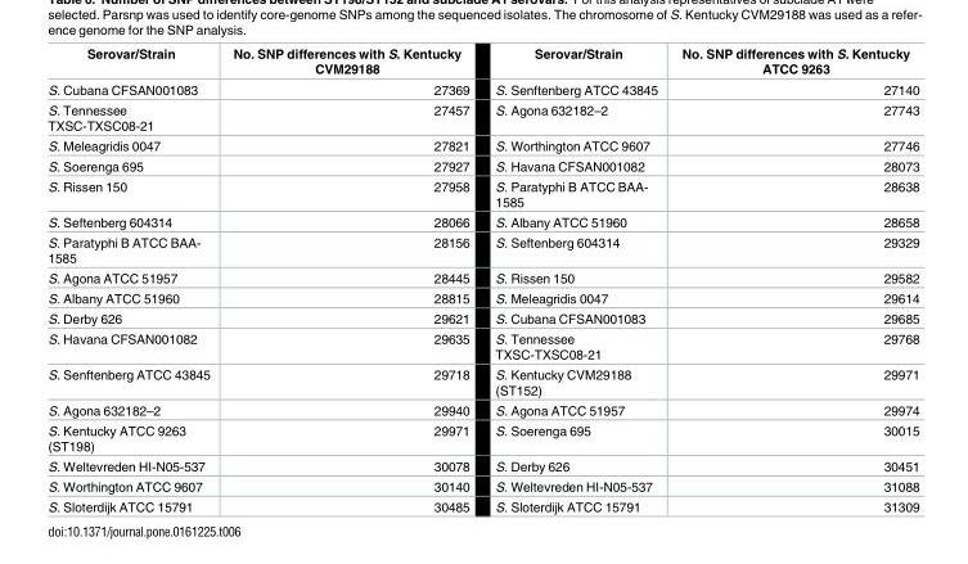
<table><thead><tr><td>Serovar/Strain</td><td>No. SNP differences with S. Kentucky CVM29188</td><td>Serovar/Strain</td><td>No. SNP differences with S. Kentucky ATCC 9263</td></tr></thead><tbody><tr><td>S. Cubana CFSAN001083</td><td>27369</td><td>S. Senftenberg ATCC 43845</td><td>27140</td></tr><tr><td>S. Tennessee TXSC-TXSC08-21</td><td>27457</td><td>S. Agona 632182–2</td><td>27743</td></tr><tr><td>S. Meleagridis 0047</td><td>27821</td><td>S. Worthington ATCC 9607</td><td>27746</td></tr><tr><td>S. Soerenga 695</td><td>27927</td><td>S. Havana CFSAN001082</td><td>28073</td></tr><tr><td>S. Rissen 150</td><td>27958</td><td>S. Paratyphi B ATCC BAA- 1585</td><td>28638</td></tr><tr><td>S. Seftenberg 604314</td><td>28066</td><td>S. Albany ATCC 51960</td><td>28658</td></tr><tr><td>S. Paratyphi B ATCC BAA- 1585</td><td>28156</td><td>S. Seftenberg 604314</td><td>29329</td></tr><tr><td>S. Agona ATCC 51957</td><td>28445</td><td>S. Rissen 150</td><td>29582</td></tr><tr><td>S. Albany ATCC 51960</td><td>28815</td><td>S. Meleagridis 0047</td><td>29614</td></tr><tr><td>S. Derby 626</td><td>29621</td><td>S. Cubana CFSAN001083</td><td>29685</td></tr><tr><td>S. Havana CFSAN001082</td><td>29635</td><td>S. Tennessee TXSC-TXSC08-21</td><td>29768</td></tr><tr><td>S. Senftenberg ATCC 43845</td><td>29718</td><td>S. Kentucky CVM29188 (ST152)</td><td>29971</td></tr><tr><td>S. Agona 632182–2</td><td>29940</td><td>S. Agona ATCC 51957</td><td>29974</td></tr><tr><td>S. Kentucky ATCC 9263 (ST198)</td><td>29971</td><td>S. Soerenga 695</td><td>30015</td></tr><tr><td>S. Weltevreden HI-N05-537</td><td>30078</td><td>S. Derby 626</td><td>30451</td></tr><tr><td>S. Worthington ATCC 9607</td><td>30140</td><td>S. Weltevreden HI-N05-537</td><td>31088</td></tr><tr><td>S. Sloterdijk ATCC 15791</td><td>30485</td><td>S. Sloterdijk ATCC 15791</td><td>31309</td></tr></tbody></table>